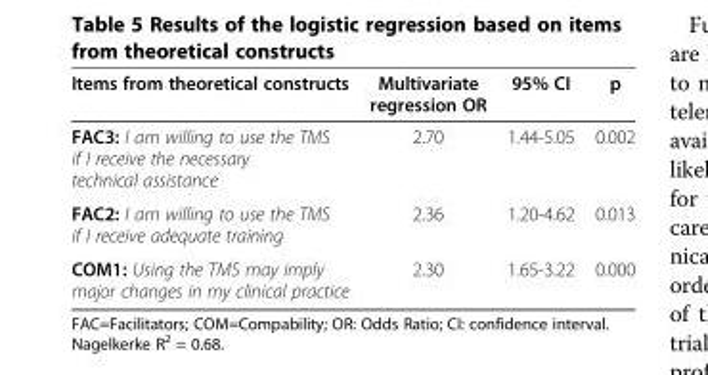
<table><thead><tr><td>Items from theoretical constructs</td><td>Multivariate regression OR</td><td>95% CI</td><td>p</td></tr></thead><tbody><tr><td>FAC3: I am willing to use the TMS if I receive the necessary technical assistance</td><td>2.70</td><td>1.44-5.05</td><td>0.002</td></tr><tr><td>FAC2: I am willing to use the TMS if I receive adequate training</td><td>2.36</td><td>1.20-4.62</td><td>0.013</td></tr><tr><td>COM1: Using the TMS may imply major changes in my clinical practice</td><td>2.30</td><td>1.65-3.22</td><td>0.000</td></tr></tbody></table>